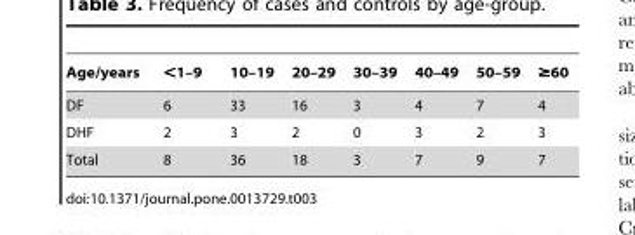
<table><thead><tr><td>Age/years</td><td>&lt;1–9</td><td>10–19</td><td>20–29</td><td>30–39</td><td>40–49</td><td>50–59</td><td>≥60</td></tr></thead><tbody><tr><td>DF</td><td>6</td><td>33</td><td>16</td><td>3</td><td>4</td><td>7</td><td>4</td></tr><tr><td>DHF</td><td>2</td><td>3</td><td>2</td><td>0</td><td>3</td><td>2</td><td>3</td></tr><tr><td>Total</td><td>8</td><td>36</td><td>18</td><td>3</td><td>7</td><td>9</td><td>7</td></tr></tbody></table>